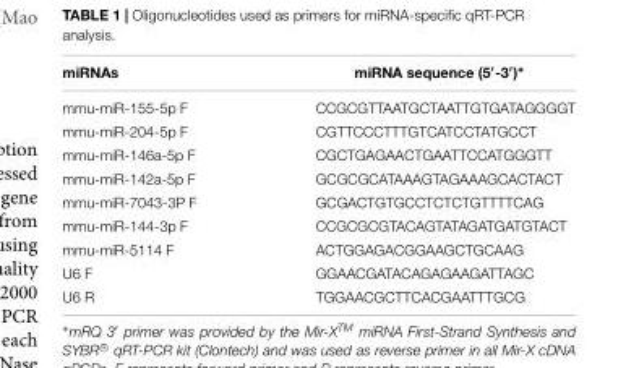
<table><thead><tr><td>miRNAs</td><td>miRNA sequence (5′-3′)∗</td></tr></thead><tbody><tr><td>mmu-miR-155-5p F</td><td>CCGCGTTAATGCTAATTGTGATAGGGGT</td></tr><tr><td>mmu-miR-204-5p F</td><td>CGTTCCCTTTGTCATCCTATGCCT</td></tr><tr><td>mmu-miR-146a-5p F</td><td>CGCTGAGAACTGAATTCCATGGGTT</td></tr><tr><td>mmu-miR-142a-5p F</td><td>GCGCGCATAAAGTAGAAAGCACTACT</td></tr><tr><td>mmu-miR-7043-3P F</td><td>GCGACTGTGCCTCTCTGTTTTCAG</td></tr><tr><td>mmu-miR-144-3p F</td><td>CCGCGCGTACAGTATAGATGATGTACT</td></tr><tr><td>mmu-miR-5114 F</td><td>ACTGGAGACGGAAGCTGCAAG</td></tr><tr><td>U6 F</td><td>GGAACGATACAGAGAAGATTAGC</td></tr><tr><td>U6 R</td><td>TGGAACGCTTCACGAATTTGCG</td></tr></tbody></table>